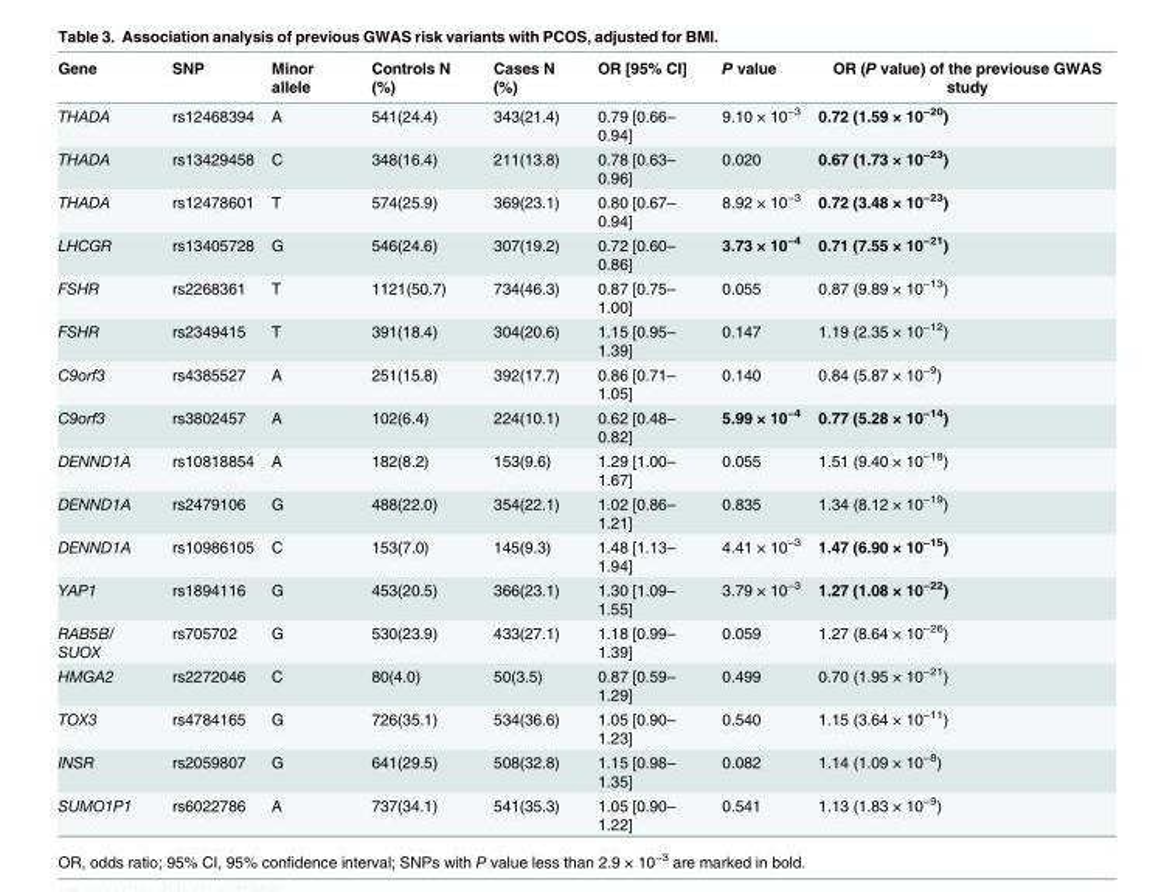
<table><thead><tr><td>Gene</td><td>SNP</td><td>Minor allele</td><td>Controls N (%)</td><td>Cases N (%)</td><td>OR [95% CI]</td><td>P value</td><td>OR (P value) of the previouse GWAS study</td></tr></thead><tbody><tr><td>THADA</td><td>rs12468394</td><td>A</td><td>541(24.4)</td><td>343(21.4)</td><td>0.79 [0.66– 0.94]</td><td>9.10 × 10<sup>−3</sup></td><td>0.72 (1.59 × 10<sup>−20</sup>)</td></tr><tr><td>THADA</td><td>rs13429458</td><td>C</td><td>348(16.4)</td><td>211(13.8)</td><td>0.78 [0.63– 0.96]</td><td>0.020</td><td>0.67 (1.73 × 10<sup>−23</sup>)</td></tr><tr><td>THADA</td><td>rs12478601</td><td>T</td><td>574(25.9)</td><td>369(23.1)</td><td>0.80 [0.67– 0.94]</td><td>8.92 × 10<sup>−3</sup></td><td>0.72 (3.48 × 10<sup>−23</sup>)</td></tr><tr><td>LHCGR</td><td>rs13405728</td><td>G</td><td>546(24.6)</td><td>307(19.2)</td><td>0.72 [0.60– 0.86]</td><td>3.73 × 10<sup>−4</sup></td><td>0.71 (7.55 × 10<sup>−21</sup>)</td></tr><tr><td>FSHR</td><td>rs2268361</td><td>T</td><td>1121(50.7)</td><td>734(46.3)</td><td>0.87 [0.75– 1.00]</td><td>0.055</td><td>0.87 (9.89 × 10<sup>−13</sup>)</td></tr><tr><td>FSHR</td><td>rs2349415</td><td>T</td><td>391(18.4)</td><td>304(20.6)</td><td>1.15 [0.95– 1.39]</td><td>0.147</td><td>1.19 (2.35 × 10<sup>−12</sup>)</td></tr><tr><td>C9orf3</td><td>rs4385527</td><td>A</td><td>251(15.8)</td><td>392(17.7)</td><td>0.86 [0.71– 1.05]</td><td>0.140</td><td>0.84 (5.87 × 10<sup>−9</sup>)</td></tr><tr><td>C9orf3</td><td>rs3802457</td><td>A</td><td>102(6.4)</td><td>224(10.1)</td><td>0.62 [0.48– 0.82]</td><td>5.99 × 10<sup>−4</sup></td><td>0.77 (5.28 × 10<sup>−14</sup>)</td></tr><tr><td>DENND1A</td><td>rs10818854</td><td>A</td><td>182(8.2)</td><td>153(9.6)</td><td>1.29 [1.00– 1.67]</td><td>0.055</td><td>1.51 (9.40 × 10<sup>−18</sup>)</td></tr><tr><td>DENND1A</td><td>rs2479106</td><td>G</td><td>488(22.0)</td><td>354(22.1)</td><td>1.02 [0.86– 1.21]</td><td>0.835</td><td>1.34 (8.12 × 10<sup>−19</sup>)</td></tr><tr><td>DENND1A</td><td>rs10986105</td><td>C</td><td>153(7.0)</td><td>145(9.3)</td><td>1.48 [1.13– 1.94]</td><td>4.41 × 10<sup>−3</sup></td><td>1.47 (6.90 × 10<sup>−15</sup>)</td></tr><tr><td>YAP1</td><td>rs1894116</td><td>G</td><td>453(20.5)</td><td>366(23.1)</td><td>1.30 [1.09– 1.55]</td><td>3.79 × 10<sup>−3</sup></td><td>1.27 (1.08 × 10<sup>−22</sup>)</td></tr><tr><td>RAB5B/ SUOX</td><td>rs705702</td><td>G</td><td>530(23.9)</td><td>433(27.1)</td><td>1.18 [0.99– 1.39]</td><td>0.059</td><td>1.27 (8.64 × 10<sup>−26</sup>)</td></tr><tr><td>HMGA2</td><td>rs2272046</td><td>C</td><td>80(4.0)</td><td>50(3.5)</td><td>0.87 [0.59– 1.29]</td><td>0.499</td><td>0.70 (1.95 × 10<sup>−21</sup>)</td></tr><tr><td>TOX3</td><td>rs4784165</td><td>G</td><td>726(35.1)</td><td>534(36.6)</td><td>1.05 [0.90– 1.23]</td><td>0.540</td><td>1.15 (3.64 × 10<sup>−11</sup>)</td></tr><tr><td>INSR</td><td>rs2059807</td><td>G</td><td>641(29.5)</td><td>508(32.8)</td><td>1.15 [0.98– 1.35]</td><td>0.082</td><td>1.14 (1.09 × 10<sup>−8</sup>)</td></tr><tr><td>SUMO1P1</td><td>rs6022786</td><td>A</td><td>737(34.1)</td><td>541(35.3)</td><td>1.05 [0.90– 1.22]</td><td>0.541</td><td>1.13 (1.83 × 10<sup>−9</sup>)</td></tr></tbody></table>